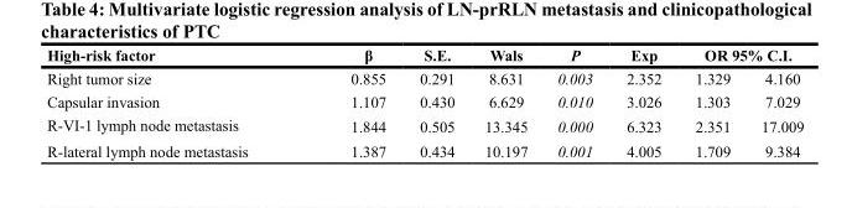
<table><thead><tr><td rowspan="2">High-risk factor Right tumor size</td><td rowspan="2">β 0.855</td><td rowspan="2">S.E. 0.291</td><td rowspan="2">Wals 8.631</td><td rowspan="2">P 0.003</td><td rowspan="2">Exp 2.352</td><td colspan="2">OR 95% C.I.</td></tr><tr><td>1.329</td><td>4.160</td></tr></thead><tbody><tr><td>Capsular invasion</td><td>1.107</td><td>0.430</td><td>6.629</td><td>0.010</td><td>3.026</td><td>1.303</td><td>7.029</td></tr><tr><td>R-VI-1 lymph node metastasis</td><td>1.844</td><td>0.505</td><td>13.345</td><td>0.000</td><td>6.323</td><td>2.351</td><td>17.009</td></tr><tr><td>R-lateral lymph node metastasis</td><td>1.387</td><td>0.434</td><td>10.197</td><td>0.001</td><td>4.005</td><td>1.709</td><td>9.384</td></tr></tbody></table>